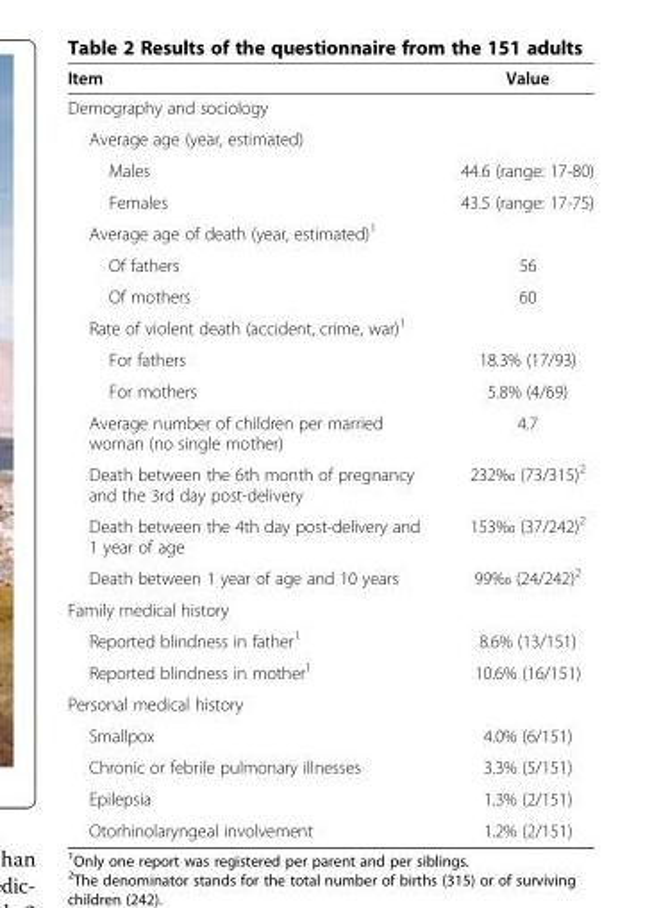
<table><thead><tr><td>Item</td><td>Value</td></tr></thead><tbody><tr><td colspan="2">Demography and sociology</td></tr><tr><td colspan="2">Average age (year, estimated)</td></tr><tr><td>Males</td><td>44.6 (range: 17-80)</td></tr><tr><td>Females</td><td>43.5 (range: 17-75)</td></tr><tr><td colspan="2">Average age of death (year, estimated)<sup>1</sup></td></tr><tr><td>Of fathers</td><td>56</td></tr><tr><td>Of mothers</td><td>60</td></tr><tr><td colspan="2">Rate of violent death (accident, crime, war)<sup>1</sup></td></tr><tr><td>For fathers</td><td>18.3% (17/93)</td></tr><tr><td>For mothers</td><td>5.8% (4/69)</td></tr><tr><td>Average number of children per married woman (no single mother)</td><td>4.7</td></tr><tr><td>Death between the 6th month of pregnancy and the 3rd day post-delivery</td><td>232‰ (73/315)<sup>2</sup></td></tr><tr><td>Death between the 4th day post-delivery and 1 year of age</td><td>153‰ (37/242)<sup>2</sup></td></tr><tr><td>Death between 1 year of age and 10 years</td><td>99‰ (24/242)<sup>2</sup></td></tr><tr><td colspan="2">Family medical history</td></tr><tr><td>Reported blindness in father<sup>1</sup></td><td>8.6% (13/151)</td></tr><tr><td>Reported blindness in mother<sup>1</sup></td><td>10.6% (16/151)</td></tr><tr><td colspan="2">Personal medical history</td></tr><tr><td>Smallpox</td><td>4.0% (6/151)</td></tr><tr><td>Chronic or febrile pulmonary illnesses</td><td>3.3% (5/151)</td></tr><tr><td>Epilepsia</td><td>1.3% (2/151)</td></tr><tr><td>Otorhinolaryngeal involvement</td><td>1.2% (2/151)</td></tr></tbody></table>